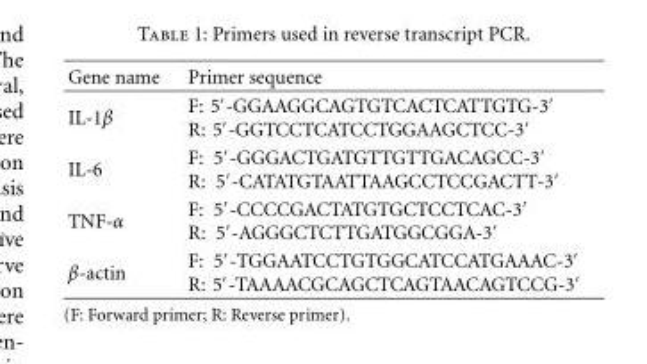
<table><thead><tr><td>Gene name</td><td>Primer sequence</td></tr></thead><tbody><tr><td>IL-1β</td><td>F: 5′-GGAAGGCAGTGTCACTCATTGTG-3′ R: 5′-GGTCCTCATCCTGGAAGCTCC-3′</td></tr><tr><td>IL-6</td><td>F: 5′-GGGACTGATGTTGTTGACAGCC-3′ R: 5′-CATATGTAATTAAGCCTCCGACTT-3′</td></tr><tr><td>TNF-α</td><td>F: 5′-CCCCGACTATGTGCTCCTCAC-3′ R: 5′-AGGGCTCTTGATGGCGGA-3′</td></tr><tr><td>β-actin</td><td>F: 5′-TGGAATCCTGTGGCATCCATGAAAC-3′ R: 5′-TAAAACGCAGCTCAGTAACAGTCCG-3′</td></tr></tbody></table>